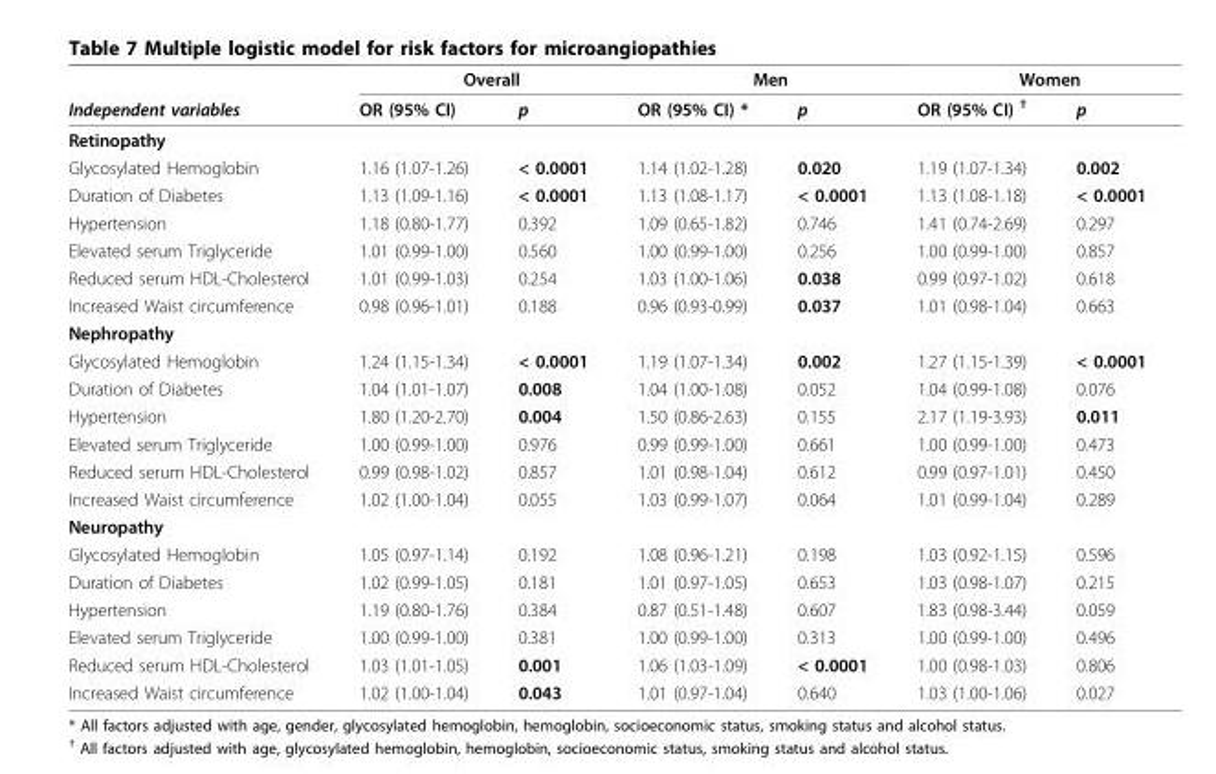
<table><thead><tr><td rowspan="2">Independent variables</td><td colspan="2">Overall</td><td colspan="2">Men</td><td colspan="2">Women</td></tr><tr><td>OR (95% CI)</td><td>p</td><td>OR (95% CI) *</td><td>p</td><td>OR (95% CI) <sup>†</sup></td><td>p</td></tr></thead><tbody><tr><td colspan="7">Retinopathy</td></tr><tr><td>Glycosylated Hemoglobin</td><td>1.16 (1.07-1.26)</td><td>&lt; 0.0001</td><td>1.14 (1.02-1.28)</td><td>0.020</td><td>1.19 (1.07-1.34)</td><td>0.002</td></tr><tr><td>Duration of Diabetes</td><td>1.13 (1.09-1.16)</td><td>&lt; 0.0001</td><td>1.13 (1.08-1.17)</td><td>&lt; 0.0001</td><td>1.13 (1.08-1.18)</td><td>&lt; 0.0001</td></tr><tr><td>Hypertension</td><td>1.18 (0.80-1.77)</td><td>0.392</td><td>1.09 (0.65-1.82)</td><td>0.746</td><td>1.41 (0.74-2.69)</td><td>0.297</td></tr><tr><td>Elevated serum Triglyceride</td><td>1.01 (0.99-1.00)</td><td>0.560</td><td>1.00 (0.99-1.00)</td><td>0.256</td><td>1.00 (0.99-1.00)</td><td>0.857</td></tr><tr><td>Reduced serum HDL-Cholesterol</td><td>1.01 (0.99-1.03)</td><td>0.254</td><td>1.03 (1.00-1.06)</td><td>0.038</td><td>0.99 (0.97-1.02)</td><td>0.618</td></tr><tr><td>Increased Waist circumference</td><td>0.98 (0.96-1.01)</td><td>0.188</td><td>0.96 (0.93-0.99)</td><td>0.037</td><td>1.01 (0.98-1.04)</td><td>0.663</td></tr><tr><td colspan="7">Nephropathy</td></tr><tr><td>Glycosylated Hemoglobin</td><td>1.24 (1.15-1.34)</td><td>&lt; 0.0001</td><td>1.19 (1.07-1.34)</td><td>0.002</td><td>1.27 (1.15-1.39)</td><td>&lt; 0.0001</td></tr><tr><td>Duration of Diabetes</td><td>1.04 (1.01-1.07)</td><td>0.008</td><td>1.04 (1.00-1.08)</td><td>0.052</td><td>1.04 (0.99-1.08)</td><td>0.076</td></tr><tr><td>Hypertension</td><td>1.80 (1.20-2.70)</td><td>0.004</td><td>1.50 (0.86-2.63)</td><td>0.155</td><td>2.17 (1.19-3.93)</td><td>0.011</td></tr><tr><td>Elevated serum Triglyceride</td><td>1.00 (0.99-1.00)</td><td>0.976</td><td>0.99 (0.99-1.00)</td><td>0.661</td><td>1.00 (0.99-1.00)</td><td>0.473</td></tr><tr><td>Reduced serum HDL-Cholesterol</td><td>0.99 (0.98-1.02)</td><td>0.857</td><td>1.01 (0.98-1.04)</td><td>0.612</td><td>0.99 (0.97-1.01)</td><td>0.450</td></tr><tr><td>Increased Waist circumference</td><td>1.02 (1.00-1.04)</td><td>0.055</td><td>1.03 (0.99-1.07)</td><td>0.064</td><td>1.01 (0.99-1.04)</td><td>0.289</td></tr><tr><td colspan="7">Neuropathy</td></tr><tr><td>Glycosylated Hemoglobin</td><td>1.05 (0.97-1.14)</td><td>0.192</td><td>1.08 (0.96-1.21)</td><td>0.198</td><td>1.03 (0.92-1.15)</td><td>0.596</td></tr><tr><td>Duration of Diabetes</td><td>1.02 (0.99-1.05)</td><td>0.181</td><td>1.01 (0.97-1.05)</td><td>0.653</td><td>1.03 (0.98-1.07)</td><td>0.215</td></tr><tr><td>Hypertension</td><td>1.19 (0.80-1.76)</td><td>0.384</td><td>0.87 (0.51-1.48)</td><td>0.607</td><td>1.83 (0.98-3.44)</td><td>0.059</td></tr><tr><td>Elevated serum Triglyceride</td><td>1.00 (0.99-1.00)</td><td>0.381</td><td>1.00 (0.99-1.00)</td><td>0.313</td><td>1.00 (0.99-1.00)</td><td>0.496</td></tr><tr><td>Reduced serum HDL-Cholesterol</td><td>1.03 (1.01-1.05)</td><td>0.001</td><td>1.06 (1.03-1.09)</td><td>&lt; 0.0001</td><td>1.00 (0.98-1.03)</td><td>0.806</td></tr><tr><td>Increased Waist circumference</td><td>1.02 (1.00-1.04)</td><td>0.043</td><td>1.01 (0.97-1.04)</td><td>0.640</td><td>1.03 (1.00-1.06)</td><td>0.027</td></tr></tbody></table>